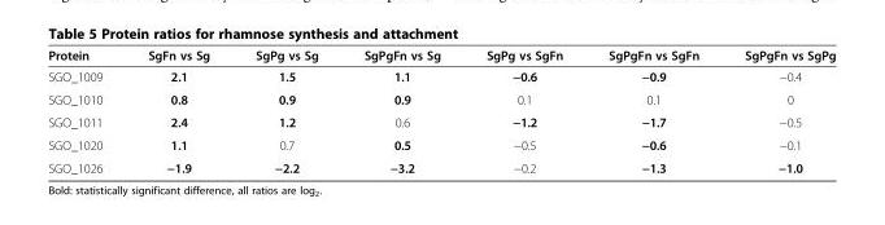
<table><thead><tr><td>Protein</td><td>SgFn vs Sg</td><td>SgPg vs Sg</td><td>SgPgFn vs Sg</td><td>SgPg vs SgFn</td><td>SgPgFn vs SgFn</td><td>SgPgFn vs SgPg</td></tr></thead><tbody><tr><td>SGO_1009</td><td>2.1</td><td>1.5</td><td>1.1</td><td>−0.6</td><td>−0.9</td><td>−0.4</td></tr><tr><td>SGO_1010</td><td>0.8</td><td>0.9</td><td>0.9</td><td>0.1</td><td>0.1</td><td>0</td></tr><tr><td>SGO_1011</td><td>2.4</td><td>1.2</td><td>0.6</td><td>−1.2</td><td>−1.7</td><td>−0.5</td></tr><tr><td>SGO_1020</td><td>1.1</td><td>0.7</td><td>0.5</td><td>−0.5</td><td>−0.6</td><td>−0.1</td></tr><tr><td>SGO_1026</td><td>−1.9</td><td>−2.2</td><td>−3.2</td><td>−0.2</td><td>−1.3</td><td>−1.0</td></tr></tbody></table>